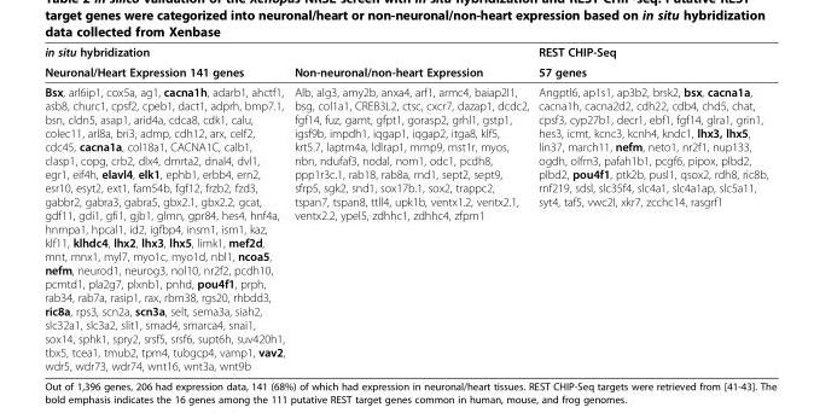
<table><thead><tr><td rowspan="2">in situ hybridization Neuronal/Heart Expression 141 genes</td><td rowspan="2">Non-neuronal/non-heart Expression</td><td rowspan="2">REST CHIP-Seq 57 genes</td></tr><tr></tr></thead><tbody><tr><td>Bsx, arl6ip1, cox5a, ag1, cacna1h, adarb1, ahctf1, asb8, churc1, cpsf2, cpeb1, dact1, adprh, bmp7.1, bsn, cldn5, asap1, arid4a, cdca8, cdk1, calu, colec11, arl8a, bri3, admp, cdh12, arx, celf2, cdc45, cacna1a, col18a1, CACNA1C, calb1, clasp1, copg, crb2, dlx4, dmrta2, dnal4, dvl1, egr1, eif4h, elavl4, elk1, ephb1, erbb4, ern2, esr10, esyt2, ext1, fam54b, fgf12, frzb2, fzd3, gabbr2, gabra3, gabra5, gbx2.1, gbx2.2, gcat, gdf11, gdi1, gfi1, gjb1, glmn, gpr84, hes4, hnf4a, hnrnpa1, hpcal1, id2, igfbp4, insm1, ism1, kaz, klf11, klhdc4, lhx2, lhx3, lhx5, limk1, mef2d, mnt, mnx1, myl7, myo1c, myo1d, nbl1, ncoa5, nefm, neurod1, neurog3, nol10, nr2f2, pcdh10, pcmtd1, pla2g7, plxnb1, pnhd, pou4f1, prph, rab34, rab7a, rasip1, rax, rbm38, rgs20, rhbdd3, ric8a, rps3, scn2a, scn3a, selt, sema3a, siah2, slc32a1, slc3a2, slit1, smad4, smarca4, snai1, sox14, sphk1, spry2, srsf5, srsf6, supt6h, suv420h1, tbx5, tcea1, tmub2, tpm4, tubgcp4, vamp1, vav2, wdr5, wdr73, wdr74, wnt16, wnt3a, wnt9b</td><td>Alb, alg3, amy2b, anxa4, arf1, armc4, baiap2l1, bsg, col1a1, CREB3L2, ctsc, cxcr7, dazap1, dcdc2, fgf14, fuz, gamt, gfpt1, gorasp2, grhl1, gstp1, igsf9b, impdh1, iqgap1, iqgap2, itga8, klf5, krt5.7, laptm4a, ldlrap1, mmp9, mst1r, myos, nbn, ndufaf3, nodal, nom1, odc1, pcdh8, ppp1r3c.1, rab18, rab8a, rnd1, sept2, sept9, sfrp5, sgk2, snd1, sox17b.1, sox2, trappc2, tspan7, tspan8, ttll4, upk1b, ventx1.2, ventx2.1, ventx2.2, ypel5, zdhhc1, zdhhc4, zfpm1</td><td>Angptl6, ap1s1, ap3b2, brsk2, bsx, cacna1a, cacna1h, cacna2d2, cdh22, cdb4, chd5, chat, cpsf3, cyp27b1, decr1, ebf1, fgf14, glra1, grin1, hes3, icmt, kcnc3, kcnh4, kndc1, lhx3, lhx5, lin37, march11, nefm, neto1, nr2f1, nup133, ogdh, olfm3, pafah1b1, pcgf6, pipox, plbd2, plbd2, pou4f1, ptk2b, pusl1, qsox2, rdh8, ric8b, rnf219, sdsl, slc35f4, slc4a1, slc4a1ap, slc5a11, syt4, taf5, vwc2l, xkr7, zcchc14, rasgrf1</td></tr></tbody></table>